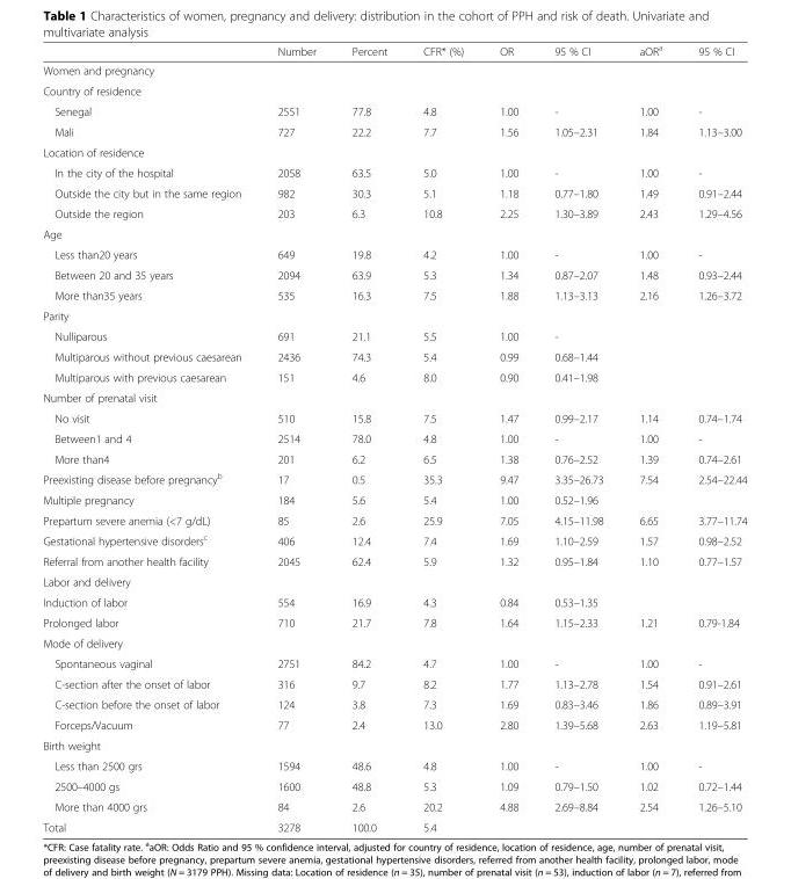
<table><thead><tr><td></td><td>Number</td><td>Percent</td><td>CFR* (%)</td><td>OR</td><td>95 % CI</td><td>aOR<sup>a</sup></td><td>95 % CI</td></tr></thead><tbody><tr><td colspan="8">Women and pregnancy</td></tr><tr><td colspan="8">Country of residence</td></tr><tr><td>Senegal</td><td>2551</td><td>77.8</td><td>4.8</td><td>1.00</td><td>-</td><td>1.00</td><td>-</td></tr><tr><td>Mali</td><td>727</td><td>22.2</td><td>7.7</td><td>1.56</td><td>1.05–2.31</td><td>1.84</td><td>1.13–3.00</td></tr><tr><td colspan="8">Location of residence</td></tr><tr><td>In the city of the hospital</td><td>2058</td><td>63.5</td><td>5.0</td><td>1.00</td><td>-</td><td>1.00</td><td>-</td></tr><tr><td>Outside the city but in the same region</td><td>982</td><td>30.3</td><td>5.1</td><td>1.18</td><td>0.77–1.80</td><td>1.49</td><td>0.91–2.44</td></tr><tr><td>Outside the region</td><td>203</td><td>6.3</td><td>10.8</td><td>2.25</td><td>1.30–3.89</td><td>2.43</td><td>1.29–4.56</td></tr><tr><td colspan="8">Age</td></tr><tr><td>Less than20 years</td><td>649</td><td>19.8</td><td>4.2</td><td>1.00</td><td>-</td><td>1.00</td><td>-</td></tr><tr><td>Between 20 and 35 years</td><td>2094</td><td>63.9</td><td>5.3</td><td>1.34</td><td>0.87–2.07</td><td>1.48</td><td>0.93–2.44</td></tr><tr><td>More than35 years</td><td>535</td><td>16.3</td><td>7.5</td><td>1.88</td><td>1.13–3.13</td><td>2.16</td><td>1.26–3.72</td></tr><tr><td colspan="8">Parity</td></tr><tr><td>Nulliparous</td><td>691</td><td>21.1</td><td>5.5</td><td>1.00</td><td>-</td><td></td><td></td></tr><tr><td>Multiparous without previous caesarean</td><td>2436</td><td>74.3</td><td>5.4</td><td>0.99</td><td>0.68–1.44</td><td></td><td></td></tr><tr><td>Multiparous with previous caesarean</td><td>151</td><td>4.6</td><td>8.0</td><td>0.90</td><td>0.41–1.98</td><td></td><td></td></tr><tr><td colspan="8">Number of prenatal visit</td></tr><tr><td>No visit</td><td>510</td><td>15.8</td><td>7.5</td><td>1.47</td><td>0.99–2.17</td><td>1.14</td><td>0.74–1.74</td></tr><tr><td>Between1 and 4</td><td>2514</td><td>78.0</td><td>4.8</td><td>1.00</td><td>-</td><td>1.00</td><td>-</td></tr><tr><td>More than4</td><td>201</td><td>6.2</td><td>6.5</td><td>1.38</td><td>0.76–2.52</td><td>1.39</td><td>0.74–2.61</td></tr><tr><td>Preexisting disease before pregnancy<sup>b</sup></td><td>17</td><td>0.5</td><td>35.3</td><td>9.47</td><td>3.35–26.73</td><td>7.54</td><td>2.54–22.44</td></tr><tr><td>Multiple pregnancy</td><td>184</td><td>5.6</td><td>5.4</td><td>1.00</td><td>0.52–1.96</td><td></td><td></td></tr><tr><td>Prepartum severe anemia (&lt;7 g/dL)</td><td>85</td><td>2.6</td><td>25.9</td><td>7.05</td><td>4.15–11.98</td><td>6.65</td><td>3.77–11.74</td></tr><tr><td>Gestational hypertensive disorders<sup>c</sup></td><td>406</td><td>12.4</td><td>7.4</td><td>1.69</td><td>1.10–2.59</td><td>1.57</td><td>0.98–2.52</td></tr><tr><td>Referral from another health facility</td><td>2045</td><td>62.4</td><td>5.9</td><td>1.32</td><td>0.95–1.84</td><td>1.10</td><td>0.77–1.57</td></tr><tr><td colspan="8">Labor and delivery</td></tr><tr><td>Induction of labor</td><td>554</td><td>16.9</td><td>4.3</td><td>0.84</td><td>0.53–1.35</td><td></td><td></td></tr><tr><td>Prolonged labor</td><td>710</td><td>21.7</td><td>7.8</td><td>1.64</td><td>1.15–2.33</td><td>1.21</td><td>0.79-1.84</td></tr><tr><td colspan="8">Mode of delivery</td></tr><tr><td>Spontaneous vaginal</td><td>2751</td><td>84.2</td><td>4.7</td><td>1.00</td><td>-</td><td>1.00</td><td>-</td></tr><tr><td>C-section after the onset of labor</td><td>316</td><td>9.7</td><td>8.2</td><td>1.77</td><td>1.13–2.78</td><td>1.54</td><td>0.91–2.61</td></tr><tr><td>C-section before the onset of labor</td><td>124</td><td>3.8</td><td>7.3</td><td>1.69</td><td>0.83–3.46</td><td>1.86</td><td>0.89–3.91</td></tr><tr><td>Forceps/Vacuum</td><td>77</td><td>2.4</td><td>13.0</td><td>2.80</td><td>1.39–5.68</td><td>2.63</td><td>1.19–5.81</td></tr><tr><td colspan="8">Birth weight</td></tr><tr><td>Less than 2500 grs</td><td>1594</td><td>48.6</td><td>4.8</td><td>1.00</td><td>-</td><td>1.00</td><td>-</td></tr><tr><td>2500–4000 gs</td><td>1600</td><td>48.8</td><td>5.3</td><td>1.09</td><td>0.79–1.50</td><td>1.02</td><td>0.72–1.44</td></tr><tr><td>More than 4000 grs</td><td>84</td><td>2.6</td><td>20.2</td><td>4.88</td><td>2.69–8.84</td><td>2.54</td><td>1.26–5.10</td></tr><tr><td>Total</td><td>3278</td><td>100.0</td><td>5.4</td><td></td><td></td><td></td><td></td></tr></tbody></table>